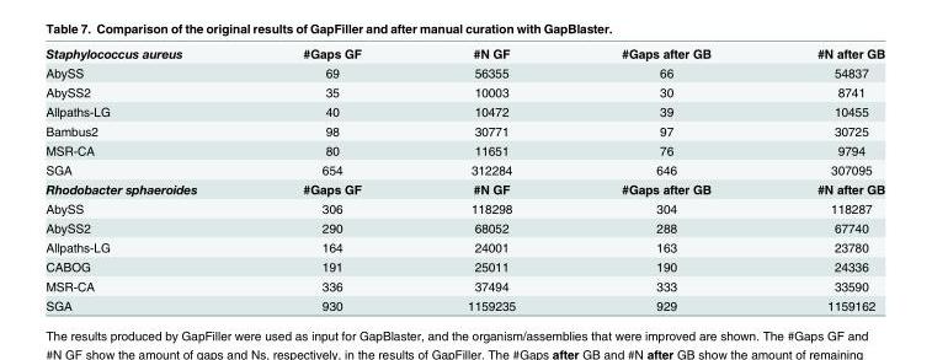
<table><tbody><tr><td>Staphylococcus aureus</td><td>#Gaps GF</td><td>#N GF</td><td>#Gaps after GB</td><td>#N after GB</td></tr><tr><td>AbySS</td><td>69</td><td>56355</td><td>66</td><td>54837</td></tr><tr><td>AbySS2</td><td>35</td><td>10003</td><td>30</td><td>8741</td></tr><tr><td>Allpaths-LG</td><td>40</td><td>10472</td><td>39</td><td>10455</td></tr><tr><td>Bambus2</td><td>98</td><td>30771</td><td>97</td><td>30725</td></tr><tr><td>MSR-CA</td><td>80</td><td>11651</td><td>76</td><td>9794</td></tr><tr><td>SGA</td><td>654</td><td>312284</td><td>646</td><td>307095</td></tr><tr><td>Rhodobacter sphaeroides</td><td>#Gaps GF</td><td>#N GF</td><td>#Gaps after GB</td><td>#N after GB</td></tr><tr><td>AbySS</td><td>306</td><td>118298</td><td>304</td><td>118287</td></tr><tr><td>AbySS2</td><td>290</td><td>68052</td><td>288</td><td>67740</td></tr><tr><td>Allpaths-LG</td><td>164</td><td>24001</td><td>163</td><td>23780</td></tr><tr><td>CABOG</td><td>191</td><td>25011</td><td>190</td><td>24336</td></tr><tr><td>MSR-CA</td><td>336</td><td>37494</td><td>333</td><td>33590</td></tr><tr><td>SGA</td><td>930</td><td>1159235</td><td>929</td><td>1159162</td></tr></tbody></table>